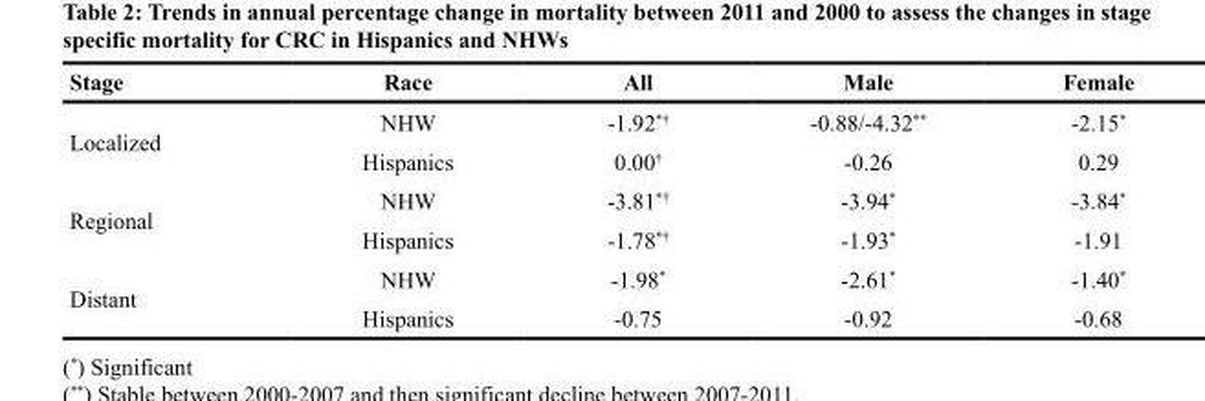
<table><thead><tr><td>Stage</td><td>Race</td><td>All</td><td>Male</td><td>Female</td></tr></thead><tbody><tr><td rowspan="2">Localized</td><td>NHW</td><td>-1.92<sup>*†</sup></td><td>-0.88/-4.32**</td><td>-2.15*</td></tr><tr><td>Hispanics</td><td>0.00<sup>†</sup></td><td>-0.26</td><td>0.29</td></tr><tr><td rowspan="2">Regional</td><td>NHW</td><td>-3.81<sup>*†</sup></td><td>-3.94*</td><td>-3.84*</td></tr><tr><td>Hispanics</td><td>-1.78<sup>*†</sup></td><td>-1.93*</td><td>-1.91</td></tr><tr><td rowspan="2">Distant</td><td>NHW</td><td>-1.98*</td><td>-2.61*</td><td>-1.40*</td></tr><tr><td>Hispanics</td><td>-0.75</td><td>-0.92</td><td>-0.68</td></tr></tbody></table>